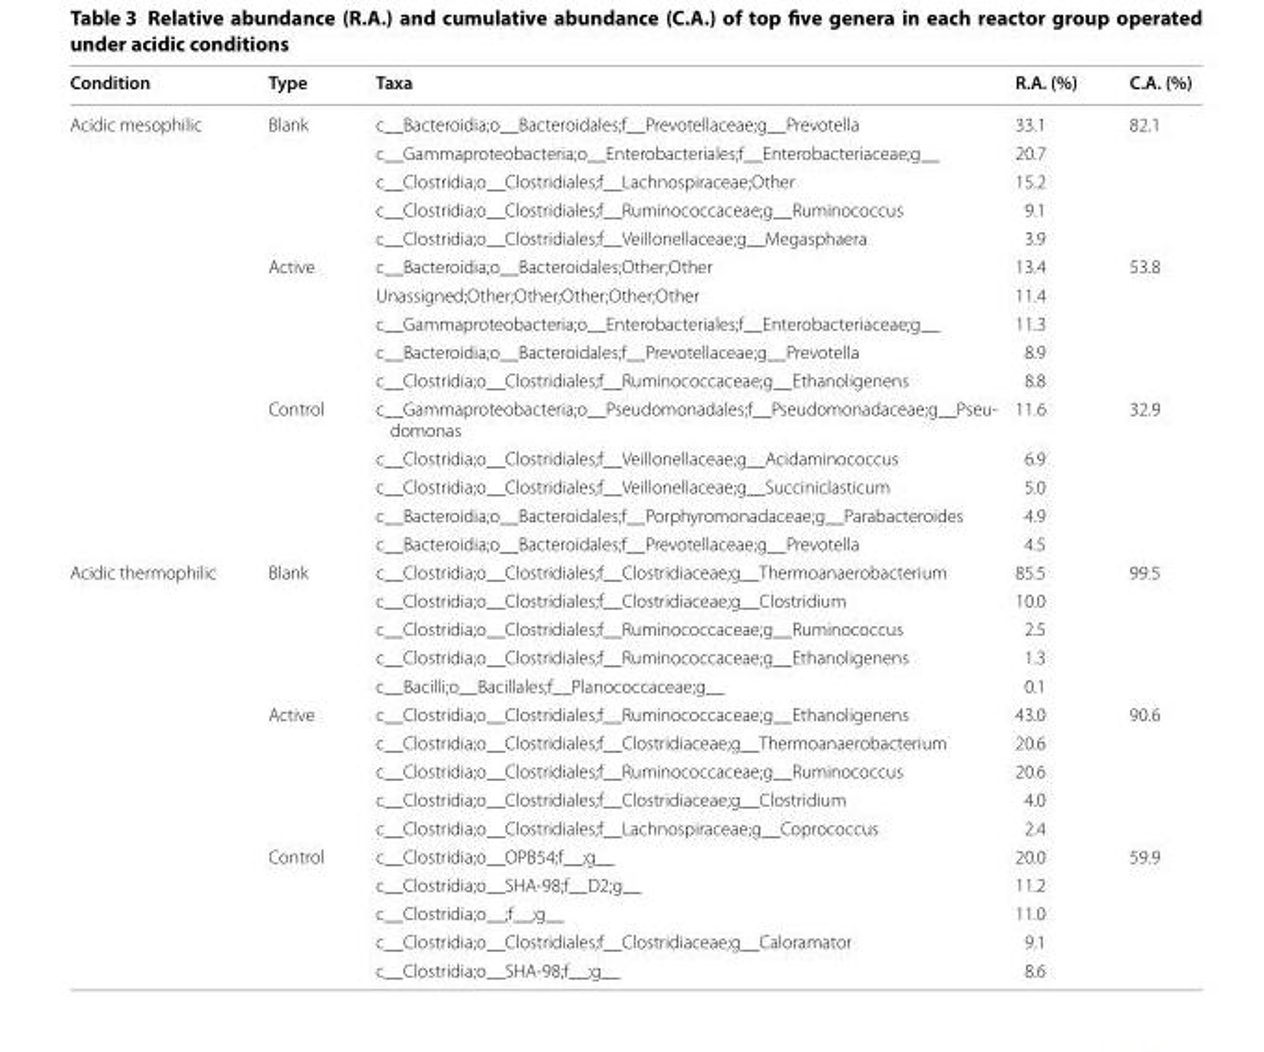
<table><thead><tr><td>Condition</td><td>Type</td><td>Taxa</td><td>R.A. (%)</td><td>C.A. (%)</td></tr></thead><tbody><tr><td rowspan="15">Acidic mesophilic</td><td rowspan="5">Blank</td><td>c__Bacteroidia;o__Bacteroidales;f__Prevotellaceae;g__Prevotella</td><td>33.1</td><td rowspan="5">82.1</td></tr><tr><td>c__Gammaproteobacteria;o__Enterobacteriales;f__Enterobacteriaceae;g__</td><td>20.7</td></tr><tr><td>c__Clostridia;o__Clostridiales;f__Lachnospiraceae;Other</td><td>15.2</td></tr><tr><td>c__Clostridia;o__Clostridiales;f__Ruminococcaceae;g__Ruminococcus</td><td>9.1</td></tr><tr><td>c__Clostridia;o__Clostridiales;f__Veillonellaceae;g__Megasphaera</td><td>3.9</td></tr><tr><td rowspan="5">Active</td><td>c__Bacteroidia;o__Bacteroidales;Other;Other</td><td>13.4</td><td rowspan="5">53.8</td></tr><tr><td>Unassigned;Other;Other;Other;Other;Other</td><td>11.4</td></tr><tr><td>c__Gammaproteobacteria;o__Enterobacteriales;f__Enterobacteriaceae;g__</td><td>11.3</td></tr><tr><td>c__Bacteroidia;o__Bacteroidales;f__Prevotellaceae;g__Prevotella</td><td>8.9</td></tr><tr><td>c__Clostridia;o__Clostridiales;f__Ruminococcaceae;g__Ethanoligenens</td><td>8.8</td></tr><tr><td rowspan="5">Control</td><td>c__Gammaproteobacteria;o__Pseudomonadales;f__Pseudomonadaceae;g__Pseu- domonas</td><td>11.6</td><td rowspan="5">32.9</td></tr><tr><td>c__Clostridia;o__Clostridiales;f__Veillonellaceae;g__Acidaminococcus</td><td>6.9</td></tr><tr><td>c__Clostridia;o__Clostridiales;f__Veillonellaceae;g__Succiniclasticum</td><td>5.0</td></tr><tr><td>c__Bacteroidia;o__Bacteroidales;f__Porphyromonadaceae;g__Parabacteroides</td><td>4.9</td></tr><tr><td>c__Bacteroidia;o__Bacteroidales;f__Prevotellaceae;g__Prevotella</td><td>4.5</td></tr><tr><td rowspan="15">Acidic thermophilic</td><td rowspan="5">Blank</td><td>c__Clostridia;o__Clostridiales;f__Clostridiaceae;g__Thermoanaerobacterium</td><td>85.5</td><td rowspan="5">99.5</td></tr><tr><td>c__Clostridia;o__Clostridiales;f__Clostridiaceae;g__Clostridium</td><td>10.0</td></tr><tr><td>c__Clostridia;o__Clostridiales;f__Ruminococcaceae;g__Ruminococcus</td><td>2.5</td></tr><tr><td>c__Clostridia;o__Clostridiales;f__Ruminococcaceae;g__Ethanoligenens</td><td>1.3</td></tr><tr><td>c__Bacilli;o__Bacillales;f__Planococcaceae;g__</td><td>0.1</td></tr><tr><td rowspan="5">Active</td><td>c__Clostridia;o__Clostridiales;f__Ruminococcaceae;g__Ethanoligenens</td><td>43.0</td><td rowspan="5">90.6</td></tr><tr><td>c__Clostridia;o__Clostridiales;f__Clostridiaceae;g__Thermoanaerobacterium</td><td>20.6</td></tr><tr><td>c__Clostridia;o__Clostridiales;f__Ruminococcaceae;g__Ruminococcus</td><td>20.6</td></tr><tr><td>c__Clostridia;o__Clostridiales;f__Clostridiaceae;g__Clostridium</td><td>4.0</td></tr><tr><td>c__Clostridia;o__Clostridiales;f__Lachnospiraceae;g__Coprococcus</td><td>2.4</td></tr><tr><td rowspan="5">Control</td><td>c__Clostridia;o__OPB54;f__;g__</td><td>20.0</td><td rowspan="5">59.9</td></tr><tr><td>c__Clostridia;o__SHA-98;f__D2;g__</td><td>11.2</td></tr><tr><td>c__Clostridia;o__;f__;g__</td><td>11.0</td></tr><tr><td>c__Clostridia;o__Clostridiales;f__Clostridiaceae;g__Caloramator</td><td>9.1</td></tr><tr><td>c__Clostridia;o__SHA-98;f__;g__</td><td>8.6</td></tr></tbody></table>